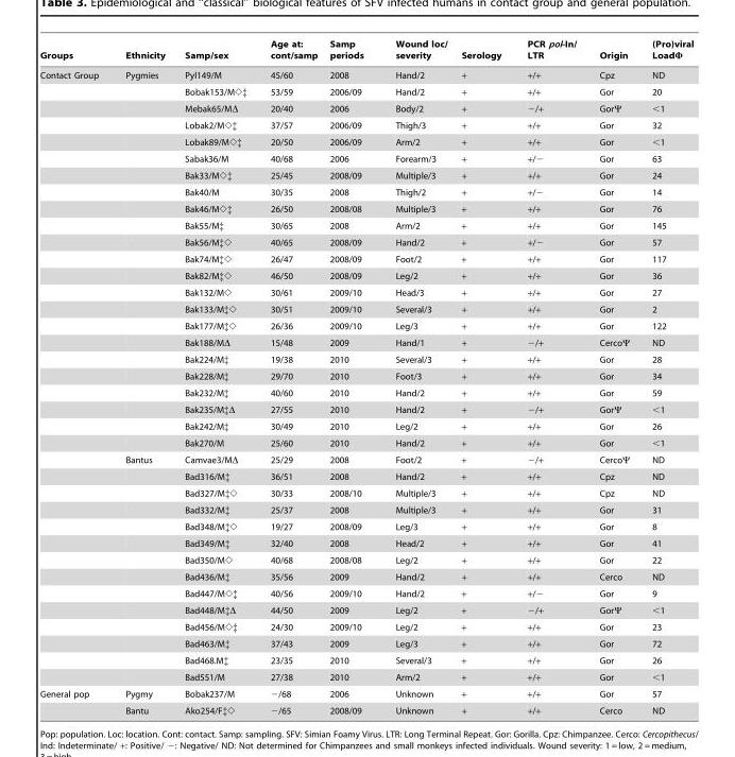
<table><thead><tr><td>Groups</td><td>Ethnicity</td><td>Samp/sex</td><td>Age at: cont/samp</td><td>Samp periods</td><td>Wound loc/ severity</td><td>Serology</td><td>PCR pol-In/ LTR</td><td>Origin</td><td>(Pro)viral LoadΦ</td></tr></thead><tbody><tr><td rowspan="37">Contact Group</td><td>Pygmies</td><td>Pyl149/M</td><td>45/60</td><td>2008</td><td>Hand/2</td><td>+</td><td>+/+</td><td>Cpz</td><td>ND</td></tr><tr><td></td><td>Bobak153/M◊‡</td><td>53/59</td><td>2006/09</td><td>Hand/2</td><td>+</td><td>+/+</td><td>Gor</td><td>20</td></tr><tr><td></td><td>Mebak65/MΔ</td><td>20/40</td><td>2006</td><td>Body/2</td><td>+</td><td>−/+</td><td>GorΨ</td><td>&lt;1</td></tr><tr><td></td><td>Lobak2/M◊‡</td><td>37/57</td><td>2006/09</td><td>Thigh/3</td><td>+</td><td>+/+</td><td>Gor</td><td>32</td></tr><tr><td></td><td>Lobak89/M◊‡</td><td>20/50</td><td>2006/09</td><td>Arm/2</td><td>+</td><td>+/+</td><td>Gor</td><td>&lt;1</td></tr><tr><td></td><td>Sabak36/M</td><td>40/68</td><td>2006</td><td>Forearm/3</td><td>+</td><td>+/−</td><td>Gor</td><td>63</td></tr><tr><td></td><td>Bak33/M◊‡</td><td>25/45</td><td>2008/09</td><td>Multiple/3</td><td>+</td><td>+/+</td><td>Gor</td><td>24</td></tr><tr><td></td><td>Bak40/M</td><td>30/35</td><td>2008</td><td>Thigh/2</td><td>+</td><td>+/−</td><td>Gor</td><td>14</td></tr><tr><td></td><td>Bak46/M◊‡</td><td>26/50</td><td>2008/08</td><td>Multiple/3</td><td>+</td><td>+/+</td><td>Gor</td><td>76</td></tr><tr><td></td><td>Bak55/M‡</td><td>30/65</td><td>2008</td><td>Arm/2</td><td>+</td><td>+/+</td><td>Gor</td><td>145</td></tr><tr><td></td><td>Bak56/M‡◊</td><td>40/65</td><td>2008/09</td><td>Hand/2</td><td>+</td><td>+/−</td><td>Gor</td><td>57</td></tr><tr><td></td><td>Bak74/M‡◊</td><td>26/47</td><td>2008/09</td><td>Foot/2</td><td>+</td><td>+/+</td><td>Gor</td><td>117</td></tr><tr><td></td><td>Bak82/M‡◊</td><td>46/50</td><td>2008/09</td><td>Leg/2</td><td>+</td><td>+/+</td><td>Gor</td><td>36</td></tr><tr><td></td><td>Bak132/M◊</td><td>30/61</td><td>2009/10</td><td>Head/3</td><td>+</td><td>+/+</td><td>Gor</td><td>27</td></tr><tr><td></td><td>Bak133/M‡◊</td><td>30/51</td><td>2009/10</td><td>Several/3</td><td>+</td><td>+/+</td><td>Gor</td><td>2</td></tr><tr><td></td><td>Bak177/M‡◊</td><td>26/36</td><td>2009/10</td><td>Leg/3</td><td>+</td><td>+/+</td><td>Gor</td><td>122</td></tr><tr><td></td><td>Bak188/MΔ</td><td>15/48</td><td>2009</td><td>Hand/1</td><td>+</td><td>−/+</td><td>CercoΨ</td><td>ND</td></tr><tr><td></td><td>Bak224/M‡</td><td>19/38</td><td>2010</td><td>Several/3</td><td>+</td><td>+/+</td><td>Gor</td><td>28</td></tr><tr><td></td><td>Bak228/M‡</td><td>29/70</td><td>2010</td><td>Foot/3</td><td>+</td><td>+/+</td><td>Gor</td><td>34</td></tr><tr><td></td><td>Bak232/M‡</td><td>40/60</td><td>2010</td><td>Hand/2</td><td>+</td><td>+/+</td><td>Gor</td><td>59</td></tr><tr><td></td><td>Bak235/M‡Δ</td><td>27/55</td><td>2010</td><td>Hand/2</td><td>+</td><td>−/+</td><td>GorΨ</td><td>&lt;1</td></tr><tr><td></td><td>Bak242/M‡</td><td>30/49</td><td>2010</td><td>Leg/2</td><td>+</td><td>+/+</td><td>Gor</td><td>26</td></tr><tr><td></td><td>Bak270/M</td><td>25/60</td><td>2010</td><td>Hand/2</td><td>+</td><td>+/+</td><td>Gor</td><td>&lt;1</td></tr><tr><td>Bantus</td><td>Camvae3/MΔ</td><td>25/29</td><td>2008</td><td>Foot/2</td><td>+</td><td>−/+</td><td>CercoΨ</td><td>ND</td></tr><tr><td></td><td>Bad316/M‡</td><td>36/51</td><td>2008</td><td>Hand/2</td><td>+</td><td>+/+</td><td>Cpz</td><td>ND</td></tr><tr><td></td><td>Bad327/M‡◊</td><td>30/33</td><td>2008/10</td><td>Multiple/3</td><td>+</td><td>+/+</td><td>Cpz</td><td>ND</td></tr><tr><td></td><td>Bad332/M‡</td><td>25/37</td><td>2008</td><td>Multiple/3</td><td>+</td><td>+/+</td><td>Gor</td><td>31</td></tr><tr><td></td><td>Bad348/M‡◊</td><td>19/27</td><td>2008/09</td><td>Leg/3</td><td>+</td><td>+/+</td><td>Gor</td><td>8</td></tr><tr><td></td><td>Bad349/M‡</td><td>32/40</td><td>2008</td><td>Head/2</td><td>+</td><td>+/+</td><td>Gor</td><td>41</td></tr><tr><td></td><td>Bad350/M◊</td><td>40/68</td><td>2008/08</td><td>Leg/2</td><td>+</td><td>+/+</td><td>Gor</td><td>22</td></tr><tr><td></td><td>Bad436/M‡</td><td>35/56</td><td>2009</td><td>Hand/2</td><td>+</td><td>+/+</td><td>Cerco</td><td>ND</td></tr><tr><td></td><td>Bad447/M◊‡</td><td>40/56</td><td>2009/10</td><td>Hand/2</td><td>+</td><td>+/−</td><td>Gor</td><td>9</td></tr><tr><td></td><td>Bad448/M‡Δ</td><td>44/50</td><td>2009</td><td>Leg/2</td><td>+</td><td>−/+</td><td>GorΨ</td><td>&lt;1</td></tr><tr><td></td><td>Bad456/M◊‡</td><td>24/30</td><td>2009/10</td><td>Leg/2</td><td>+</td><td>+/+</td><td>Gor</td><td>23</td></tr><tr><td></td><td>Bad463/M‡</td><td>37/43</td><td>2009</td><td>Leg/3</td><td>+</td><td>+/+</td><td>Gor</td><td>72</td></tr><tr><td></td><td>Bad468.M‡</td><td>23/35</td><td>2010</td><td>Several/3</td><td>+</td><td>+/+</td><td>Gor</td><td>26</td></tr><tr><td></td><td>Bad551/M</td><td>27/38</td><td>2010</td><td>Arm/2</td><td>+</td><td>+/+</td><td>Gor</td><td>&lt;1</td></tr><tr><td rowspan="2">General pop</td><td>Pygmy</td><td>Bobak237/M</td><td>−/68</td><td>2006</td><td>Unknown</td><td>+</td><td>+/+</td><td>Gor</td><td>57</td></tr><tr><td>Bantu</td><td>Ako254/F‡◊</td><td>−/65</td><td>2008/09</td><td>Unknown</td><td>+</td><td>+/+</td><td>Cerco</td><td>ND</td></tr></tbody></table>